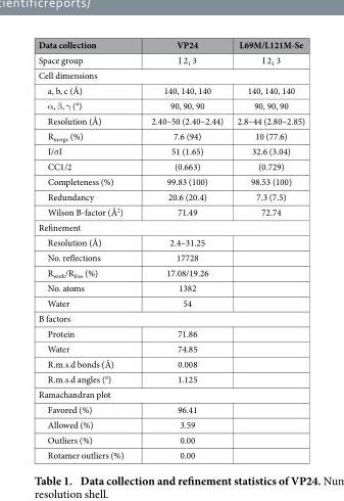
<table><thead><tr><td>Data collection</td><td>VP24</td><td>L69M/L121M-Se</td></tr></thead><tbody><tr><td>Space group</td><td>I 2<sub>1</sub> 3</td><td>I 2<sub>1</sub> 3</td></tr><tr><td colspan="3">Cell dimensions</td></tr><tr><td>a, b, c (Å)</td><td>140, 140, 140</td><td>140, 140, 140</td></tr><tr><td>α , β , γ (°)</td><td>90, 90, 90</td><td>90, 90, 90</td></tr><tr><td>Resolution (Å)</td><td>2.40–50 (2.40–2.44)</td><td>2.8–44 (2.80–2.85)</td></tr><tr><td>R<sub>merge</sub> (%)</td><td>7.6 (94)</td><td>10 (77.6)</td></tr><tr><td>I/σ I</td><td>51 (1.65)</td><td>32.6 (3.04)</td></tr><tr><td>CC1/2</td><td>(0.663)</td><td>(0.729)</td></tr><tr><td>Completeness (%)</td><td>99.83 (100)</td><td>98.53 (100)</td></tr><tr><td>Redundancy</td><td>20.6 (20.4)</td><td>7.3 (7.5)</td></tr><tr><td>Wilson B-factor (Å<sup>2</sup>)</td><td>71.49</td><td>72.74</td></tr><tr><td colspan="3">Refinement</td></tr><tr><td>Resolution (Å)</td><td>2.4–31.25</td><td></td></tr><tr><td>No. reflections</td><td>17728</td><td></td></tr><tr><td>R<sub>work</sub>/R<sub>free</sub> (%)</td><td>17.08/19.26</td><td></td></tr><tr><td>No. atoms</td><td>1382</td><td></td></tr><tr><td>Water</td><td>54</td><td></td></tr><tr><td colspan="3">B factors</td></tr><tr><td>Protein</td><td>71.86</td><td></td></tr><tr><td>Water</td><td>74.85</td><td></td></tr><tr><td>R.m.s.d bonds (Å)</td><td>0.008</td><td></td></tr><tr><td>R.m.s.d angles (°)</td><td>1.125</td><td></td></tr><tr><td colspan="3">Ramachandran plot</td></tr><tr><td>Favored (%)</td><td>96.41</td><td></td></tr><tr><td>Allowed (%)</td><td>3.59</td><td></td></tr><tr><td>Outliers (%)</td><td>0.00</td><td></td></tr><tr><td>Rotamer outliers (%)</td><td>0.00</td><td></td></tr></tbody></table>